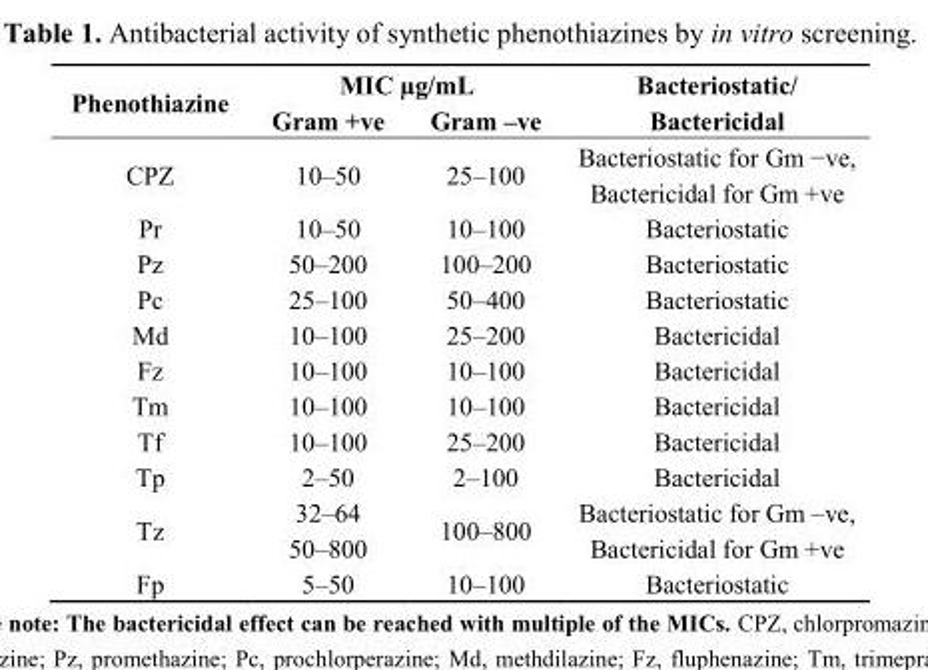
<table><thead><tr><td rowspan="2">Phenothiazine</td><td colspan="2">MIC µg/mL</td><td rowspan="2">Bacteriostatic/ Bactericidal</td></tr><tr><td>Gram +ve</td><td>Gram –ve</td></tr></thead><tbody><tr><td>CPZ</td><td>10–50</td><td>25–100</td><td>Bacteriostatic for Gm −ve, Bactericidal for Gm +ve</td></tr><tr><td>Pr</td><td>10–50</td><td>10–100</td><td>Bacteriostatic</td></tr><tr><td>Pz</td><td>50–200</td><td>100–200</td><td>Bacteriostatic</td></tr><tr><td>Pc</td><td>25–100</td><td>50–400</td><td>Bacteriostatic</td></tr><tr><td>Md</td><td>10–100</td><td>25–200</td><td>Bactericidal</td></tr><tr><td>Fz</td><td>10–100</td><td>10–100</td><td>Bactericidal</td></tr><tr><td>Tm</td><td>10–100</td><td>10–100</td><td>Bactericidal</td></tr><tr><td>Tf</td><td>10–100</td><td>25–200</td><td>Bactericidal</td></tr><tr><td>Tp</td><td>2–50</td><td>2–100</td><td>Bactericidal</td></tr><tr><td rowspan="2">Tz</td><td>32–64</td><td rowspan="2">100–800</td><td rowspan="2">Bacteriostatic for Gm –ve, Bactericidal for Gm +ve</td></tr><tr><td>50–800</td></tr><tr><td>Fp</td><td>5–50</td><td>10–100</td><td>Bacteriostatic</td></tr></tbody></table>